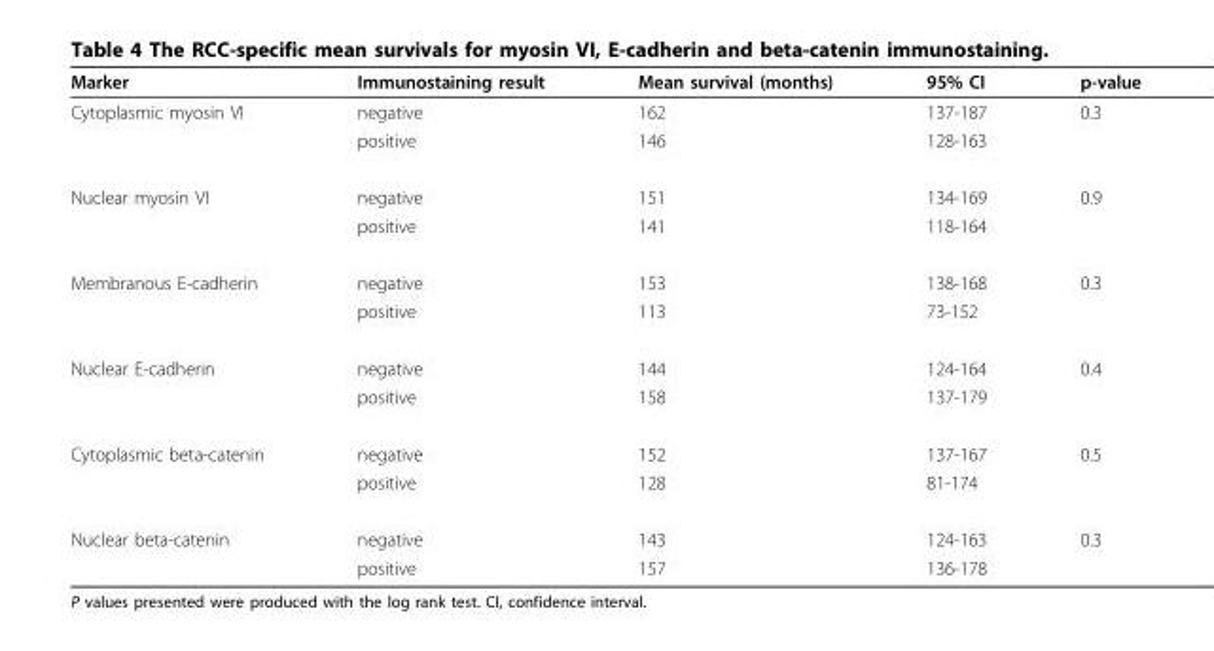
<table><thead><tr><td>Marker</td><td>Immunostaining result</td><td>Mean survival (months)</td><td>95% CI</td><td>p-value</td></tr></thead><tbody><tr><td rowspan="2">Cytoplasmic myosin VI</td><td>negative</td><td>162</td><td>137-187</td><td>0.3</td></tr><tr><td>positive</td><td>146</td><td>128-163</td><td></td></tr><tr><td rowspan="2">Nuclear myosin VI</td><td>negative</td><td>151</td><td>134-169</td><td>0.9</td></tr><tr><td>positive</td><td>141</td><td>118-164</td><td></td></tr><tr><td rowspan="2">Membranous E-cadherin</td><td>negative</td><td>153</td><td>138-168</td><td>0.3</td></tr><tr><td>positive</td><td>113</td><td>73-152</td><td></td></tr><tr><td rowspan="2">Nuclear E-cadherin</td><td>negative</td><td>144</td><td>124-164</td><td>0.4</td></tr><tr><td>positive</td><td>158</td><td>137-179</td><td></td></tr><tr><td rowspan="2">Cytoplasmic beta-catenin</td><td>negative</td><td>152</td><td>137-167</td><td>0.5</td></tr><tr><td>positive</td><td>128</td><td>81-174</td><td></td></tr><tr><td rowspan="2">Nuclear beta-catenin</td><td>negative</td><td>143</td><td>124-163</td><td>0.3</td></tr><tr><td>positive</td><td>157</td><td>136-178</td><td></td></tr></tbody></table>